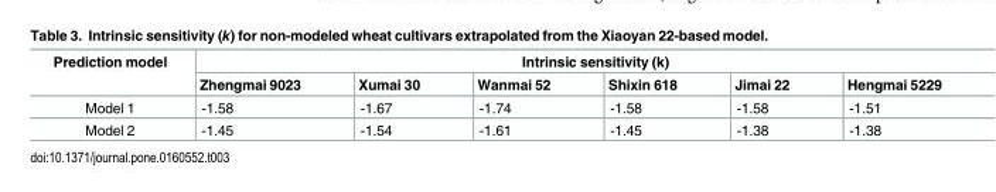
<table><thead><tr><td rowspan="2">Prediction model</td><td colspan="6">Intrinsic sensitivity (k)</td></tr><tr><td>Zhengmai 9023</td><td>Xumai 30</td><td>Wanmai 52</td><td>Shixin 618</td><td>Jimai 22</td><td>Hengmai 5229</td></tr></thead><tbody><tr><td>Model 1</td><td>-1.58</td><td>-1.67</td><td>-1.74</td><td>-1.58</td><td>-1.58</td><td>-1.51</td></tr><tr><td>Model 2</td><td>-1.45</td><td>-1.54</td><td>-1.61</td><td>-1.45</td><td>-1.38</td><td>-1.38</td></tr></tbody></table>